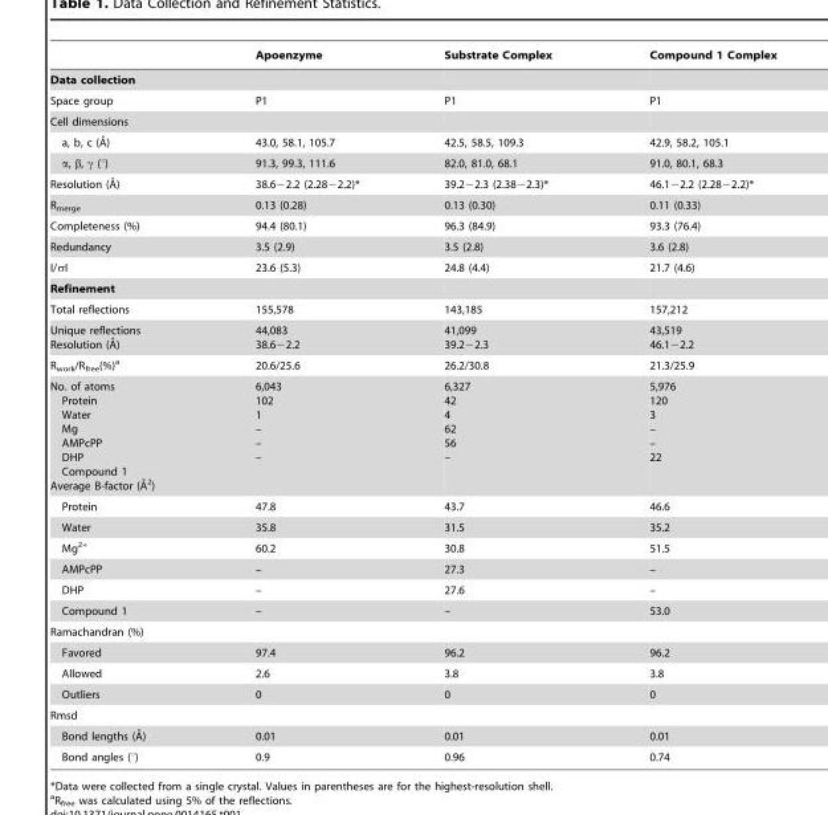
<table><thead><tr><td></td><td>Apoenzyme</td><td>Substrate Complex</td><td>Compound 1 Complex</td></tr></thead><tbody><tr><td colspan="4">Data collection</td></tr><tr><td>Space group</td><td>P1</td><td>P1</td><td>P1</td></tr><tr><td colspan="4">Cell dimensions</td></tr><tr><td>a, b, c (A˚)</td><td>43.0, 58.1, 105.7</td><td>42.5, 58.5, 109.3</td><td>42.9, 58.2, 105.1</td></tr><tr><td>α, β, γ (°)</td><td>91.3, 99.3, 111.6</td><td>82.0, 81.0, 68.1</td><td>91.0, 80.1, 68.3</td></tr><tr><td>Resolution (A˚)</td><td>38.6−2.2 (2.28−2.2)*</td><td>39.2−2.3 (2.38−2.3)*</td><td>46.1−2.2 (2.28−2.2)*</td></tr><tr><td>R<sub>merge</sub></td><td>0.13 (0.28)</td><td>0.13 (0.30)</td><td>0.11 (0.33)</td></tr><tr><td>Completeness (%)</td><td>94.4 (80.1)</td><td>96.3 (84.9)</td><td>93.3 (76.4)</td></tr><tr><td>Redundancy</td><td>3.5 (2.9)</td><td>3.5 (2.8)</td><td>3.6 (2.8)</td></tr><tr><td>I/σI</td><td>23.6 (5.3)</td><td>24.8 (4.4)</td><td>21.7 (4.6)</td></tr><tr><td colspan="4">Refinement</td></tr><tr><td>Total reflections</td><td>155,578</td><td>143,185</td><td>157,212</td></tr><tr><td>Unique reflections Resolution (A˚)</td><td>44,083 38.6−2.2</td><td>41,099 39.2−2.3</td><td>43,519 46.1−2.2</td></tr><tr><td>R<sub>work</sub>/R<sub>free</sub>(%)<sup>a</sup></td><td>20.6/25.6</td><td>26.2/30.8</td><td>21.3/25.9</td></tr><tr><td>No. of atoms Protein Water Mg AMPcPP DHP Compound 1 Average B-factor (A˚2)</td><td>6,043 102 1 – – –</td><td>6,327 42 4 62 56 –</td><td>5,976 120 3 – – 22</td></tr><tr><td>Protein</td><td>47.8</td><td>43.7</td><td>46.6</td></tr><tr><td>Water</td><td>35.8</td><td>31.5</td><td>35.2</td></tr><tr><td>Mg<sup>2+</sup></td><td>60.2</td><td>30.8</td><td>51.5</td></tr><tr><td>AMPcPP</td><td>–</td><td>27.3</td><td>–</td></tr><tr><td>DHP</td><td>–</td><td>27.6</td><td>–</td></tr><tr><td>Compound 1</td><td>–</td><td>–</td><td>53.0</td></tr><tr><td colspan="4">Ramachandran (%)</td></tr><tr><td>Favored</td><td>97.4</td><td>96.2</td><td>96.2</td></tr><tr><td>Allowed</td><td>2.6</td><td>3.8</td><td>3.8</td></tr><tr><td>Outliers</td><td>0</td><td>0</td><td>0</td></tr><tr><td colspan="4">Rmsd</td></tr><tr><td>Bond lengths (A˚)</td><td>0.01</td><td>0.01</td><td>0.01</td></tr><tr><td>Bond angles (°)</td><td>0.9</td><td>0.96</td><td>0.74</td></tr></tbody></table>